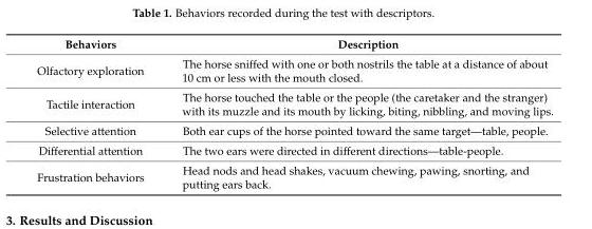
<table><thead><tr><td>Behaviors</td><td>Description</td></tr></thead><tbody><tr><td>Olfactory exploration</td><td>The horse sniffed with one or both nostrils the table at a distance of about 10 cm or less with the mouth closed.</td></tr><tr><td>Tactile interaction</td><td>The horse touched the table or the people (the caretaker and the stranger) with its muzzle and its mouth by licking, biting, nibbling, and moving lips.</td></tr><tr><td>Selective attention</td><td>Both ear cups of the horse pointed toward the same target—table, people.</td></tr><tr><td>Differential attention</td><td>The two ears were directed in different directions—table-people.</td></tr><tr><td>Frustration behaviors</td><td>Head nods and head shakes, vacuum chewing, pawing, snorting, and putting ears back.</td></tr></tbody></table>